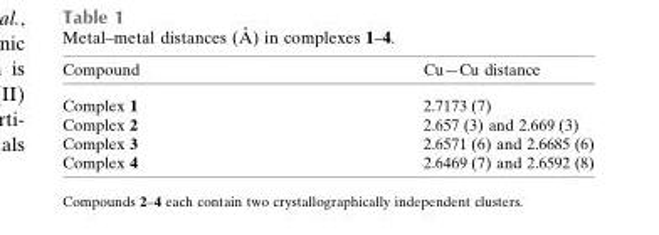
<table><thead><tr><td>Compound</td><td>Cu—Cu distance</td></tr></thead><tbody><tr><td>Complex 1</td><td>2.7173 (7)</td></tr><tr><td>Complex 2</td><td>2.657 (3) and 2.669 (3)</td></tr><tr><td>Complex 3</td><td>2.6571 (6) and 2.6685 (6)</td></tr><tr><td>Complex 4</td><td>2.6469 (7) and 2.6592 (8)</td></tr></tbody></table>